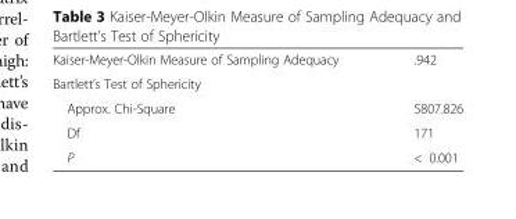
<table><tbody><tr><td>Kaiser-Meyer-Olkin Measure of Sampling Adequacy</td><td>.942</td></tr><tr><td colspan="2">Bartlett’s Test of Sphericity</td></tr><tr><td>Approx. Chi-Square</td><td>5807.826</td></tr><tr><td>Df</td><td>171</td></tr><tr><td>P</td><td>&lt; 0.001</td></tr></tbody></table>